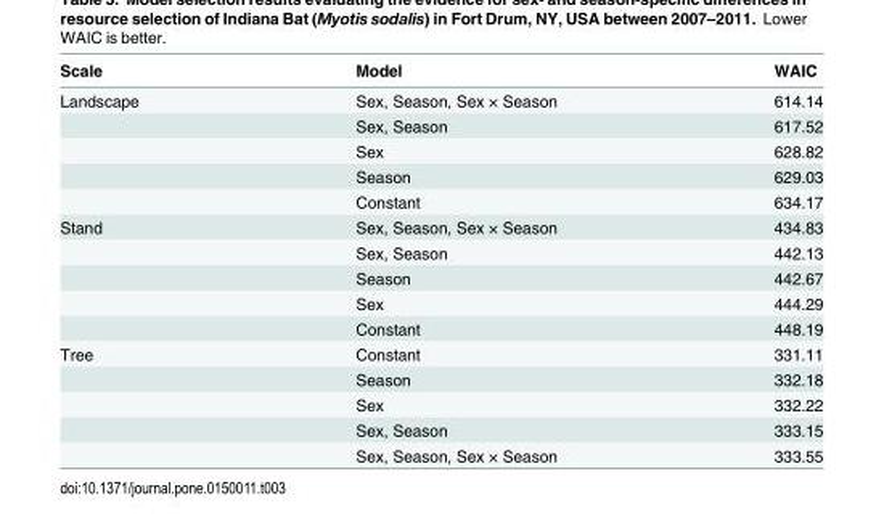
<table><thead><tr><td>Scale</td><td>Model</td><td>WAIC</td></tr></thead><tbody><tr><td rowspan="5">Landscape</td><td>Sex, Season, Sex × Season</td><td>614.14</td></tr><tr><td>Sex, Season</td><td>617.52</td></tr><tr><td>Sex</td><td>628.82</td></tr><tr><td>Season</td><td>629.03</td></tr><tr><td>Constant</td><td>634.17</td></tr><tr><td rowspan="5">Stand</td><td>Sex, Season, Sex × Season</td><td>434.83</td></tr><tr><td>Sex, Season</td><td>442.13</td></tr><tr><td>Season</td><td>442.67</td></tr><tr><td>Sex</td><td>444.29</td></tr><tr><td>Constant</td><td>448.19</td></tr><tr><td rowspan="5">Tree</td><td>Constant</td><td>331.11</td></tr><tr><td>Season</td><td>332.18</td></tr><tr><td>Sex</td><td>332.22</td></tr><tr><td>Sex, Season</td><td>333.15</td></tr><tr><td>Sex, Season, Sex × Season</td><td>333.55</td></tr></tbody></table>